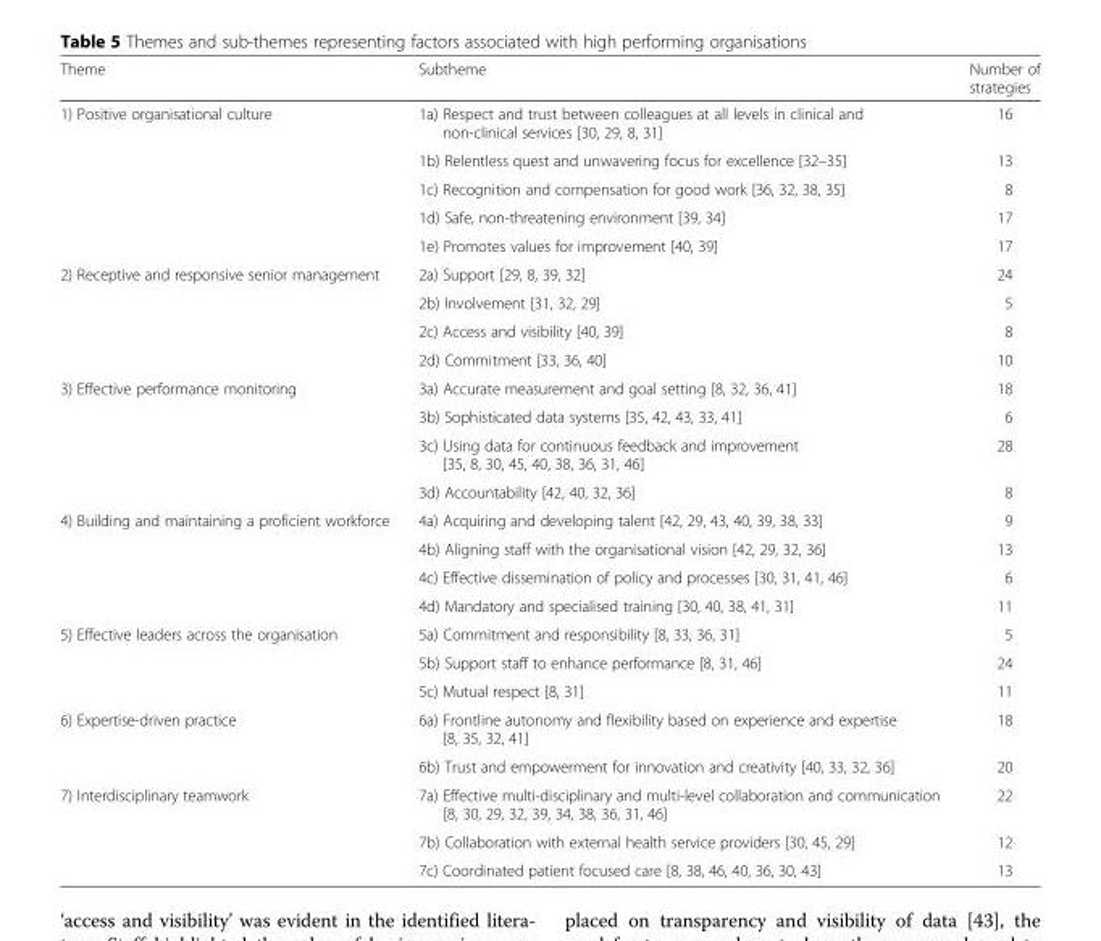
<table><thead><tr><td>Theme</td><td>Subtheme</td><td>Number of strategies</td></tr></thead><tbody><tr><td rowspan="5">1) Positive organisational culture</td><td>1a) Respect and trust between colleagues at all levels in clinical and non-clinical services [30, 29, 8, 31]</td><td>16</td></tr><tr><td>1b) Relentless quest and unwavering focus for excellence [32–35]</td><td>13</td></tr><tr><td>1c) Recognition and compensation for good work [36, 32, 38, 35]</td><td>8</td></tr><tr><td>1d) Safe, non-threatening environment [39, 34]</td><td>17</td></tr><tr><td>1e) Promotes values for improvement [40, 39]</td><td>17</td></tr><tr><td rowspan="4">2) Receptive and responsive senior management</td><td>2a) Support [29, 8, 39, 32]</td><td>24</td></tr><tr><td>2b) Involvement [31, 32, 29]</td><td>5</td></tr><tr><td>2c) Access and visibility [40, 39]</td><td>8</td></tr><tr><td>2d) Commitment [33, 36, 40]</td><td>10</td></tr><tr><td rowspan="4">3) Effective performance monitoring</td><td>3a) Accurate measurement and goal setting [8, 32, 36, 41]</td><td>18</td></tr><tr><td>3b) Sophisticated data systems [35, 42, 43, 33, 41]</td><td>6</td></tr><tr><td>3c) Using data for continuous feedback and improvement [35, 8, 30, 45, 40, 38, 36, 31, 46]</td><td>28</td></tr><tr><td>3d) Accountability [42, 40, 32, 36]</td><td>8</td></tr><tr><td rowspan="4">4) Building and maintaining a proficient workforce</td><td>4a) Acquiring and developing talent [42, 29, 43, 40, 39, 38, 33]</td><td>9</td></tr><tr><td>4b) Aligning staff with the organisational vision [42, 29, 32, 36]</td><td>13</td></tr><tr><td>4c) Effective dissemination of policy and processes [30, 31, 41, 46]</td><td>6</td></tr><tr><td>4d) Mandatory and specialised training [30, 40, 38, 41, 31]</td><td>11</td></tr><tr><td rowspan="3">5) Effective leaders across the organisation</td><td>5a) Commitment and responsibility [8, 33, 36, 31]</td><td>5</td></tr><tr><td>5b) Support staff to enhance performance [8, 31, 46]</td><td>24</td></tr><tr><td>5c) Mutual respect [8, 31]</td><td>11</td></tr><tr><td rowspan="2">6) Expertise-driven practice</td><td>6a) Frontline autonomy and flexibility based on experience and expertise [8, 35, 32, 41]</td><td>18</td></tr><tr><td>6b) Trust and empowerment for innovation and creativity [40, 33, 32, 36]</td><td>20</td></tr><tr><td rowspan="3">7) Interdisciplinary teamwork</td><td>7a) Effective multi-disciplinary and multi-level collaboration and communication [8, 30, 29, 32, 39, 34, 38, 36, 31, 46]</td><td>22</td></tr><tr><td>7b) Collaboration with external health service providers [30, 45, 29]</td><td>12</td></tr><tr><td>7c) Coordinated patient focused care [8, 38, 46, 40, 36, 30, 43]</td><td>13</td></tr></tbody></table>